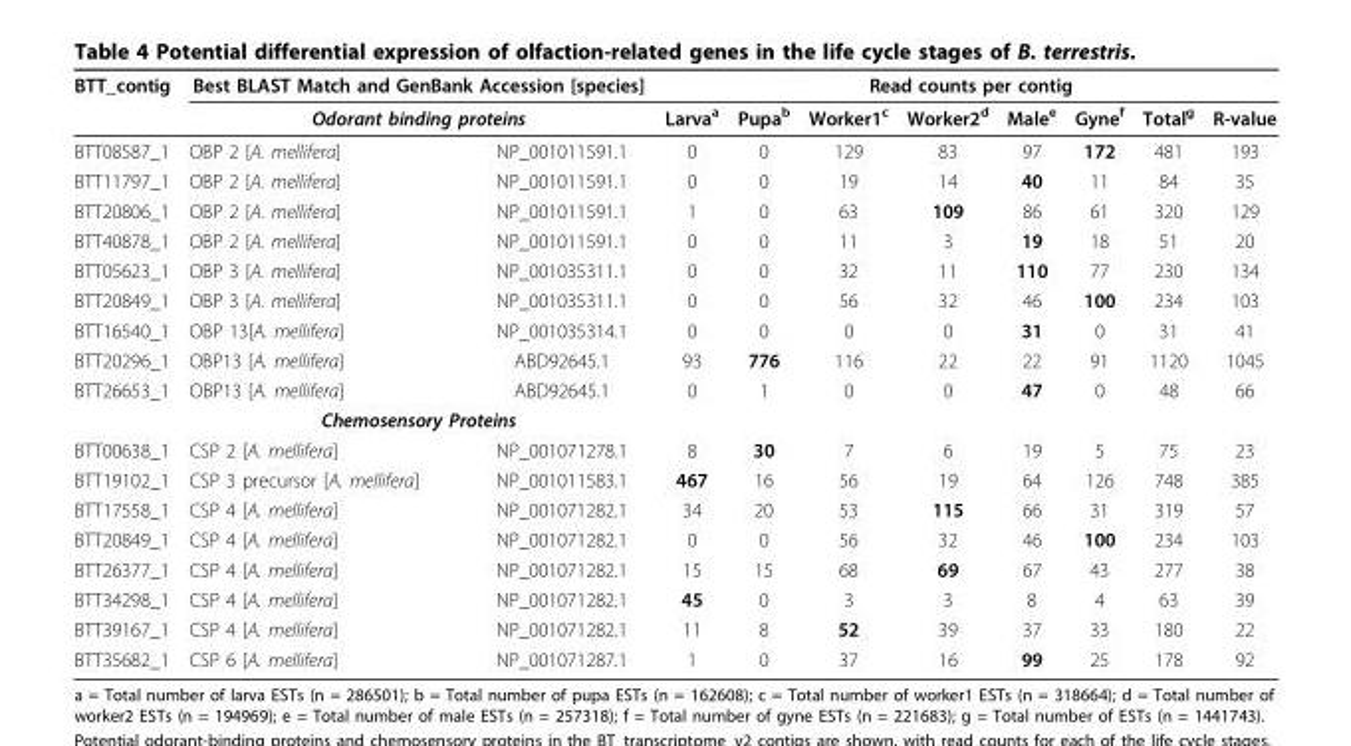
<table><thead><tr><td rowspan="3">BTT_contig BTT08587_1</td><td rowspan="2" colspan="2">Best BLAST Match and GenBank Accession [species] Odorant binding proteins</td><td colspan="8">Read counts per contig</td></tr><tr><td rowspan="2">Larva<sup>a</sup> 0</td><td rowspan="2">Pupa<sup>b</sup> 0</td><td rowspan="2">Worker1<sup>c</sup> 129</td><td rowspan="2">Worker2<sup>d</sup> 83</td><td rowspan="2">Male<sup>e</sup> 97</td><td rowspan="2">Gyne<sup>f</sup> 172</td><td rowspan="2">Total<sup>g</sup> 481</td><td rowspan="2">R-value 193</td></tr><tr><td>OBP 2 [A. mellifera]</td><td>NP_001011591.1</td></tr></thead><tbody><tr><td>BTT11797_1</td><td>OBP 2 [A. mellifera]</td><td>NP_001011591.1</td><td>0</td><td>0</td><td>19</td><td>14</td><td>40</td><td>11</td><td>84</td><td>35</td></tr><tr><td>BTT20806_1</td><td>OBP 2 [A. mellifera]</td><td>NP_001011591.1</td><td>1</td><td>0</td><td>63</td><td>109</td><td>86</td><td>61</td><td>320</td><td>129</td></tr><tr><td>BTT40878_1</td><td>OBP 2 [A. mellifera]</td><td>NP_001011591.1</td><td>0</td><td>0</td><td>11</td><td>3</td><td>19</td><td>18</td><td>51</td><td>20</td></tr><tr><td>BTT05623_1</td><td>OBP 3 [A. mellifera]</td><td>NP_001035311.1</td><td>0</td><td>0</td><td>32</td><td>11</td><td>110</td><td>77</td><td>230</td><td>134</td></tr><tr><td>BTT20849_1</td><td>OBP 3 [A. mellifera]</td><td>NP_001035311.1</td><td>0</td><td>0</td><td>56</td><td>32</td><td>46</td><td>100</td><td>234</td><td>103</td></tr><tr><td>BTT16540_1</td><td>OBP 13[A. mellifera]</td><td>NP_001035314.1</td><td>0</td><td>0</td><td>0</td><td>0</td><td>31</td><td>0</td><td>31</td><td>41</td></tr><tr><td>BTT20296_1</td><td>OBP13 [A. mellifera]</td><td>ABD92645.1</td><td>93</td><td>776</td><td>116</td><td>22</td><td>22</td><td>91</td><td>1120</td><td>1045</td></tr><tr><td rowspan="2">BTT26653_1</td><td>OBP13 [A. mellifera]</td><td>ABD92645.1</td><td>0</td><td>1</td><td>0</td><td>0</td><td>47</td><td>0</td><td>48</td><td>66</td></tr><tr><td colspan="2">Chemosensory Proteins</td><td></td><td></td><td></td><td></td><td></td><td></td><td></td><td></td></tr><tr><td>BTT00638_1</td><td>CSP 2 [A. mellifera]</td><td>NP_001071278.1</td><td>8</td><td>30</td><td>7</td><td>6</td><td>19</td><td>5</td><td>75</td><td>23</td></tr><tr><td>BTT19102_1</td><td>CSP 3 precursor [A. mellifera]</td><td>NP_001011583.1</td><td>467</td><td>16</td><td>56</td><td>19</td><td>64</td><td>126</td><td>748</td><td>385</td></tr><tr><td>BTT17558_1</td><td>CSP 4 [A. mellifera]</td><td>NP_001071282.1</td><td>34</td><td>20</td><td>53</td><td>115</td><td>66</td><td>31</td><td>319</td><td>57</td></tr><tr><td>BTT20849_1</td><td>CSP 4 [A. mellifera]</td><td>NP_001071282.1</td><td>0</td><td>0</td><td>56</td><td>32</td><td>46</td><td>100</td><td>234</td><td>103</td></tr><tr><td>BTT26377_1</td><td>CSP 4 [A. mellifera]</td><td>NP_001071282.1</td><td>15</td><td>15</td><td>68</td><td>69</td><td>67</td><td>43</td><td>277</td><td>38</td></tr><tr><td>BTT34298_1</td><td>CSP 4 [A. mellifera]</td><td>NP_001071282.1</td><td>45</td><td>0</td><td>3</td><td>3</td><td>8</td><td>4</td><td>63</td><td>39</td></tr><tr><td>BTT39167_1</td><td>CSP 4 [A. mellifera]</td><td>NP_001071282.1</td><td>11</td><td>8</td><td>52</td><td>39</td><td>37</td><td>33</td><td>180</td><td>22</td></tr><tr><td>BTT35682_1</td><td>CSP 6 [A. mellifera]</td><td>NP_001071287.1</td><td>1</td><td>0</td><td>37</td><td>16</td><td>99</td><td>25</td><td>178</td><td>92</td></tr></tbody></table>